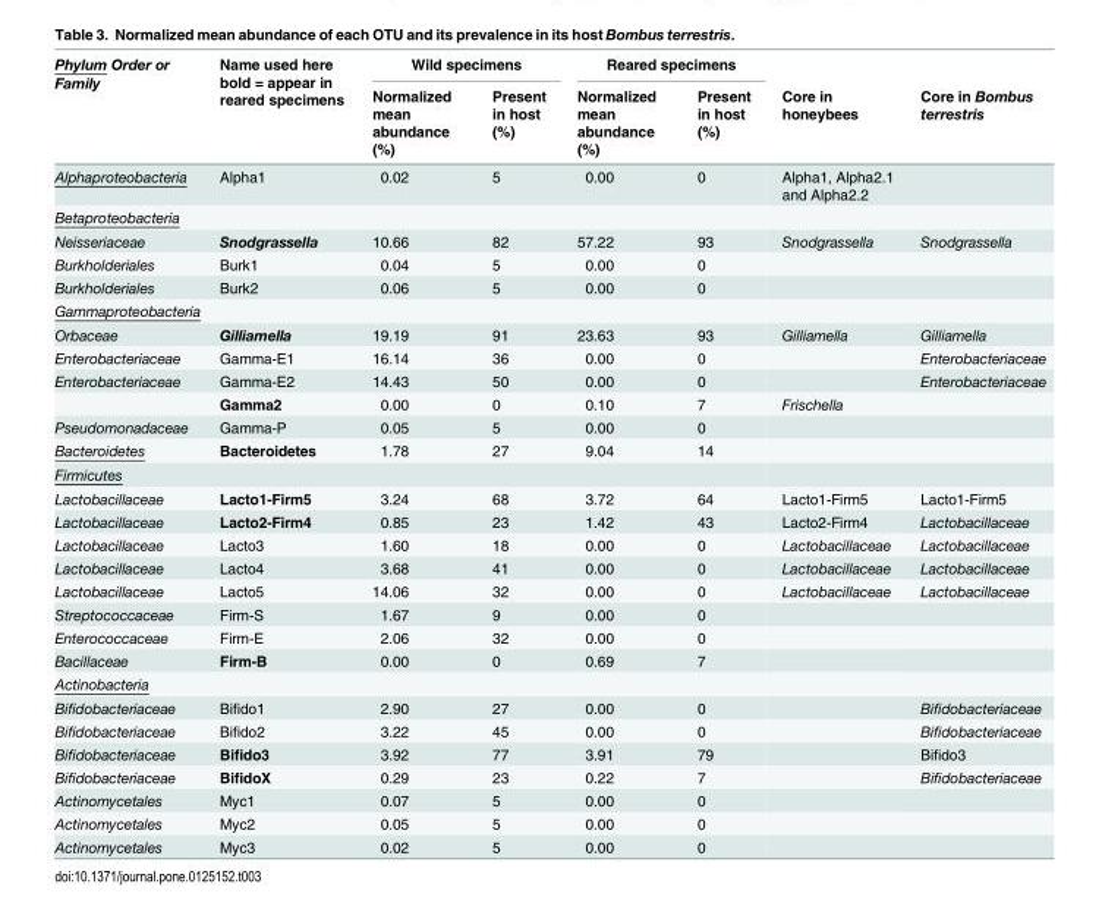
<table><thead><tr><td rowspan="2">Phylum Order or Family</td><td rowspan="2">Name used here bold = appear in reared specimens</td><td colspan="2">Wild specimens</td><td colspan="2">Reared specimens</td><td rowspan="2">Core in honeybees</td><td rowspan="2">Core in Bombus terrestris</td></tr><tr><td>Normalized mean abundance (%)</td><td>Present in host (%)</td><td>Normalized mean abundance (%)</td><td>Present in host (%)</td></tr></thead><tbody><tr><td>Alphaproteobacteria</td><td>Alpha1</td><td>0.02</td><td>5</td><td>0.00</td><td>0</td><td>Alpha1, Alpha2.1 and Alpha2.2</td><td></td></tr><tr><td colspan="8">Betaproteobacteria</td></tr><tr><td>Neisseriaceae</td><td>Snodgrassella</td><td>10.66</td><td>82</td><td>57.22</td><td>93</td><td>Snodgrassella</td><td>Snodgrassella</td></tr><tr><td>Burkholderiales</td><td>Burk1</td><td>0.04</td><td>5</td><td>0.00</td><td>0</td><td></td><td></td></tr><tr><td>Burkholderiales</td><td>Burk2</td><td>0.06</td><td>5</td><td>0.00</td><td>0</td><td></td><td></td></tr><tr><td colspan="8">Gammaproteobacteria</td></tr><tr><td>Orbaceae</td><td>Gilliamella</td><td>19.19</td><td>91</td><td>23.63</td><td>93</td><td>Gilliamella</td><td>Gilliamella</td></tr><tr><td>Enterobacteriaceae</td><td>Gamma-E1</td><td>16.14</td><td>36</td><td>0.00</td><td>0</td><td></td><td>Enterobacteriaceae</td></tr><tr><td rowspan="2">Enterobacteriaceae</td><td>Gamma-E2</td><td>14.43</td><td>50</td><td>0.00</td><td>0</td><td></td><td>Enterobacteriaceae</td></tr><tr><td>Gamma2</td><td>0.00</td><td>0</td><td>0.10</td><td>7</td><td>Frischella</td><td></td></tr><tr><td>Pseudomonadaceae</td><td>Gamma-P</td><td>0.05</td><td>5</td><td>0.00</td><td>0</td><td></td><td></td></tr><tr><td>Bacteroidetes</td><td>Bacteroidetes</td><td>1.78</td><td>27</td><td>9.04</td><td>14</td><td></td><td></td></tr><tr><td colspan="8">Firmicutes</td></tr><tr><td>Lactobacillaceae</td><td>Lacto1-Firm5</td><td>3.24</td><td>68</td><td>3.72</td><td>64</td><td>Lacto1-Firm5</td><td>Lacto1-Firm5</td></tr><tr><td>Lactobacillaceae</td><td>Lacto2-Firm4</td><td>0.85</td><td>23</td><td>1.42</td><td>43</td><td>Lacto2-Firm4</td><td>Lactobacillaceae</td></tr><tr><td>Lactobacillaceae</td><td>Lacto3</td><td>1.60</td><td>18</td><td>0.00</td><td>0</td><td>Lactobacillaceae</td><td>Lactobacillaceae</td></tr><tr><td>Lactobacillaceae</td><td>Lacto4</td><td>3.68</td><td>41</td><td>0.00</td><td>0</td><td>Lactobacillaceae</td><td>Lactobacillaceae</td></tr><tr><td>Lactobacillaceae</td><td>Lacto5</td><td>14.06</td><td>32</td><td>0.00</td><td>0</td><td>Lactobacillaceae</td><td>Lactobacillaceae</td></tr><tr><td>Streptococcaceae</td><td>Firm-S</td><td>1.67</td><td>9</td><td>0.00</td><td>0</td><td></td><td></td></tr><tr><td>Enterococcaceae</td><td>Firm-E</td><td>2.06</td><td>32</td><td>0.00</td><td>0</td><td></td><td></td></tr><tr><td>Bacillaceae</td><td>Firm-B</td><td>0.00</td><td>0</td><td>0.69</td><td>7</td><td></td><td></td></tr><tr><td colspan="8">Actinobacteria</td></tr><tr><td>Bifidobacteriaceae</td><td>Bifido1</td><td>2.90</td><td>27</td><td>0.00</td><td>0</td><td></td><td>Bifidobacteriaceae</td></tr><tr><td>Bifidobacteriaceae</td><td>Bifido2</td><td>3.22</td><td>45</td><td>0.00</td><td>0</td><td></td><td>Bifidobacteriaceae</td></tr><tr><td>Bifidobacteriaceae</td><td>Bifido3</td><td>3.92</td><td>77</td><td>3.91</td><td>79</td><td></td><td>Bifido3</td></tr><tr><td>Bifidobacteriaceae</td><td>BifidoX</td><td>0.29</td><td>23</td><td>0.22</td><td>7</td><td></td><td>Bifidobacteriaceae</td></tr><tr><td>Actinomycetales</td><td>Myc1</td><td>0.07</td><td>5</td><td>0.00</td><td>0</td><td></td><td></td></tr><tr><td>Actinomycetales</td><td>Myc2</td><td>0.05</td><td>5</td><td>0.00</td><td>0</td><td></td><td></td></tr><tr><td>Actinomycetales</td><td>Myc3</td><td>0.02</td><td>5</td><td>0.00</td><td>0</td><td></td><td></td></tr></tbody></table>